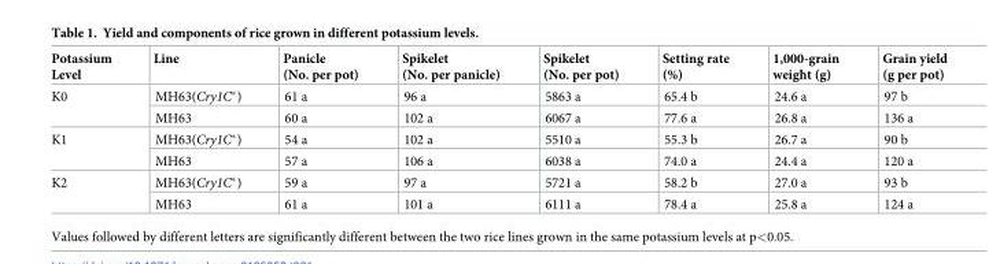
<table><thead><tr><td>Potassium Level</td><td>Line</td><td>Panicle (No. per pot)</td><td>Spikelet (No. per panicle)</td><td>Spikelet (No. per pot)</td><td>Setting rate (%)</td><td>1,000-grain weight (g)</td><td>Grain yield (g per pot)</td></tr></thead><tbody><tr><td rowspan="2">K0</td><td>MH63(Cry1C*)</td><td>61 a</td><td>96 a</td><td>5863 a</td><td>65.4 b</td><td>24.6 a</td><td>97 b</td></tr><tr><td>MH63</td><td>60 a</td><td>102 a</td><td>6067 a</td><td>77.6 a</td><td>26.8 a</td><td>136 a</td></tr><tr><td rowspan="2">K1</td><td>MH63(Cry1C*)</td><td>54 a</td><td>102 a</td><td>5510 a</td><td>55.3 b</td><td>26.7 a</td><td>90 b</td></tr><tr><td>MH63</td><td>57 a</td><td>106 a</td><td>6038 a</td><td>74.0 a</td><td>24.4 a</td><td>120 a</td></tr><tr><td rowspan="2">K2</td><td>MH63(Cry1C*)</td><td>59 a</td><td>97 a</td><td>5721 a</td><td>58.2 b</td><td>27.0 a</td><td>93 b</td></tr><tr><td>MH63</td><td>61 a</td><td>101 a</td><td>6111 a</td><td>78.4 a</td><td>25.8 a</td><td>124 a</td></tr></tbody></table>